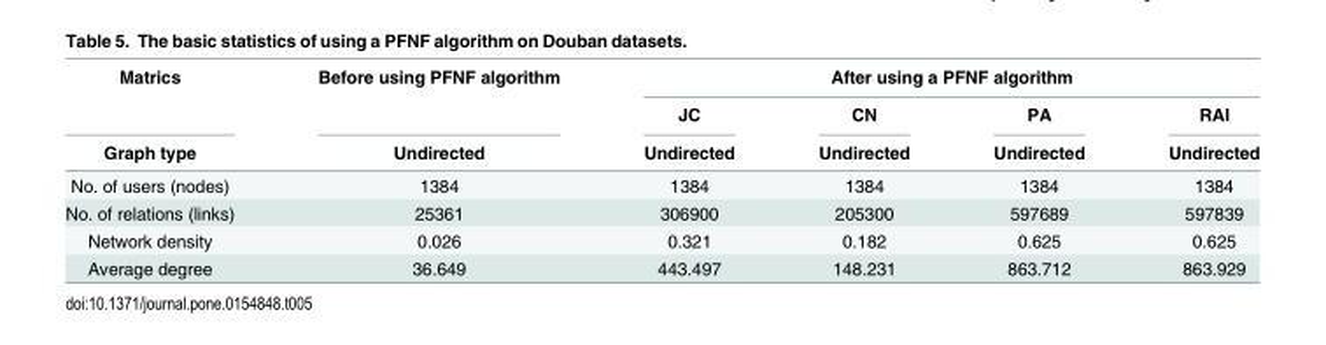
<table><thead><tr><td rowspan="3">Matrics Graph type</td><td rowspan="3">Before using PFNF algorithm Undirected</td><td colspan="4">After using a PFNF algorithm</td></tr><tr><td rowspan="2">JC Undirected</td><td rowspan="2">CN Undirected</td><td rowspan="2">PA Undirected</td><td rowspan="2">RAI Undirected</td></tr><tr></tr></thead><tbody><tr><td>No. of users (nodes)</td><td>1384</td><td>1384</td><td>1384</td><td>1384</td><td>1384</td></tr><tr><td>No. of relations (links)</td><td>25361</td><td>306900</td><td>205300</td><td>597689</td><td>597839</td></tr><tr><td>Network density</td><td>0.026</td><td>0.321</td><td>0.182</td><td>0.625</td><td>0.625</td></tr><tr><td>Average degree</td><td>36.649</td><td>443.497</td><td>148.231</td><td>863.712</td><td>863.929</td></tr></tbody></table>